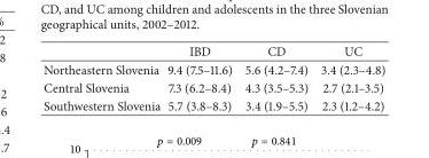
<table><thead><tr><td></td><td>IBD</td><td>CD</td><td>UC</td></tr></thead><tbody><tr><td>Northeastern Slovenia</td><td>9.4 (7.5–11.6)</td><td>5.6 (4.2–7.4)</td><td>3.4 (2.3–4.8)</td></tr><tr><td>Central Slovenia</td><td>7.3 (6.2–8.4)</td><td>4.3 (3.5–5.3)</td><td>2.7 (2.1–3.5)</td></tr><tr><td>Southwestern Slovenia</td><td>5.7 (3.8–8.3)</td><td>3.4 (1.9–5.5)</td><td>2.3 (1.2–4.2)</td></tr></tbody></table>